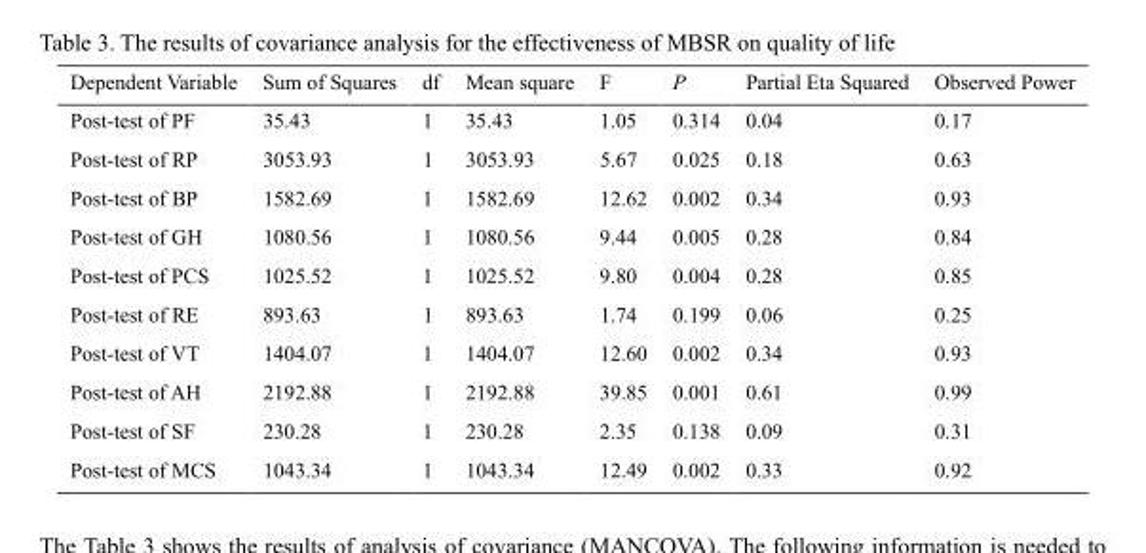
<table><thead><tr><td>Dependent Variable</td><td>Sum of Squares</td><td>df</td><td>Mean square</td><td>F</td><td>P</td><td>Partial Eta Squared</td><td>Observed Power</td></tr></thead><tbody><tr><td>Post-test of PF</td><td>35.43</td><td>1</td><td>35.43</td><td>1.05</td><td>0.314</td><td>0.04</td><td>0.17</td></tr><tr><td>Post-test of RP</td><td>3053.93</td><td>1</td><td>3053.93</td><td>5.67</td><td>0.025</td><td>0.18</td><td>0.63</td></tr><tr><td>Post-test of BP</td><td>1582.69</td><td>1</td><td>1582.69</td><td>12.62</td><td>0.002</td><td>0.34</td><td>0.93</td></tr><tr><td>Post-test of GH</td><td>1080.56</td><td>1</td><td>1080.56</td><td>9.44</td><td>0.005</td><td>0.28</td><td>0.84</td></tr><tr><td>Post-test of PCS</td><td>1025.52</td><td>1</td><td>1025.52</td><td>9.80</td><td>0.004</td><td>0.28</td><td>0.85</td></tr><tr><td>Post-test of RE</td><td>893.63</td><td>1</td><td>893.63</td><td>1.74</td><td>0.199</td><td>0.06</td><td>0.25</td></tr><tr><td>Post-test of VT</td><td>1404.07</td><td>1</td><td>1404.07</td><td>12.60</td><td>0.002</td><td>0.34</td><td>0.93</td></tr><tr><td>Post-test of AH</td><td>2192.88</td><td>1</td><td>2192.88</td><td>39.85</td><td>0.001</td><td>0.61</td><td>0.99</td></tr><tr><td>Post-test of SF</td><td>230.28</td><td>1</td><td>230.28</td><td>2.35</td><td>0.138</td><td>0.09</td><td>0.31</td></tr><tr><td>Post-test of MCS</td><td>1043.34</td><td>1</td><td>1043.34</td><td>12.49</td><td>0.002</td><td>0.33</td><td>0.92</td></tr></tbody></table>